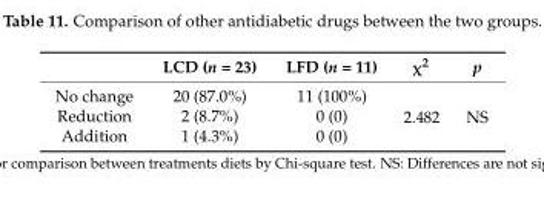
<table><thead><tr><td></td><td>LCD (n = 23)</td><td>LFD (n = 11)</td><td>χ<sup>2</sup></td><td>p</td></tr></thead><tbody><tr><td>No change</td><td>20 (87.0%)</td><td>11 (100%)</td><td rowspan="3">2.482</td><td rowspan="3">NS</td></tr><tr><td>Reduction</td><td>2 (8.7%)</td><td>0 (0)</td></tr><tr><td>Addition</td><td>1 (4.3%)</td><td>0 (0)</td></tr></tbody></table>